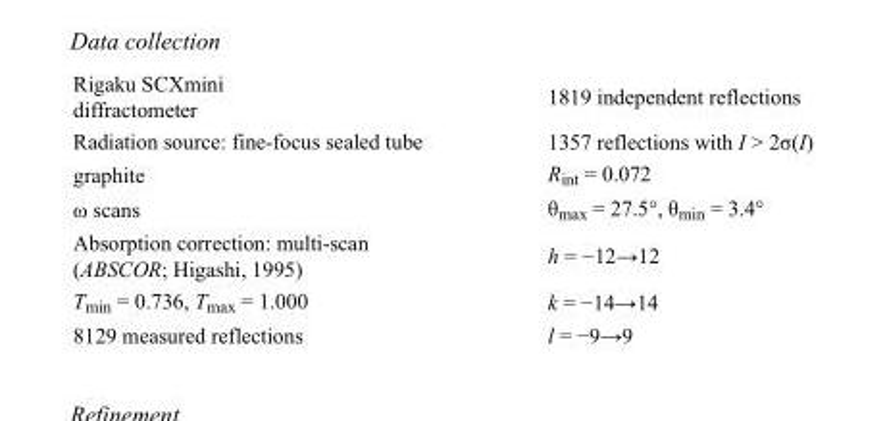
<table><tbody><tr><td>Rigaku SCXmini diffractometer</td><td>1819 independent reflections</td></tr><tr><td>Radiation source: fine-focus sealed tube</td><td>1357 reflections with I &gt; 2σ(I)</td></tr><tr><td>graphite</td><td>R<sub>int</sub> = 0.072</td></tr><tr><td>ω scans</td><td>θ<sub>max</sub> = 27.5°, θ<sub>min</sub> = 3.4°</td></tr><tr><td>Absorption correction: multi-scan (ABSCOR; Higashi, 1995)</td><td>h = −12→12</td></tr><tr><td>T<sub>min</sub> = 0.736, T<sub>max</sub> = 1.000</td><td>k = −14→14</td></tr><tr><td>8129 measured reflections</td><td>l = −9→9</td></tr></tbody></table>